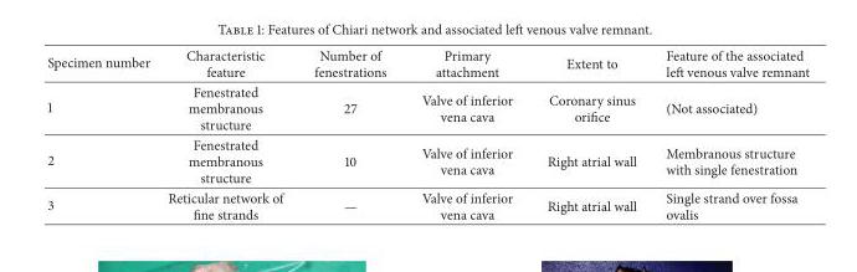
<table><thead><tr><td>Specimen number</td><td>Characteristic feature</td><td>Number of fenestrations</td><td>Primary attachment</td><td>Extent to</td><td>Feature of the associated left venous valve remnant</td></tr></thead><tbody><tr><td>1</td><td>Fenestrated membranous structure</td><td>27</td><td>Valve of inferior vena cava</td><td>Coronary sinus orifice</td><td>(Not associated)</td></tr><tr><td>2</td><td>Fenestrated membranous structure</td><td>10</td><td>Valve of inferior vena cava</td><td>Right atrial wall</td><td>Membranous structure with single fenestration</td></tr><tr><td>3</td><td>Reticular network of fine strands</td><td>—</td><td>Valve of inferior vena cava</td><td>Right atrial wall</td><td>Single strand over fossa ovalis</td></tr></tbody></table>